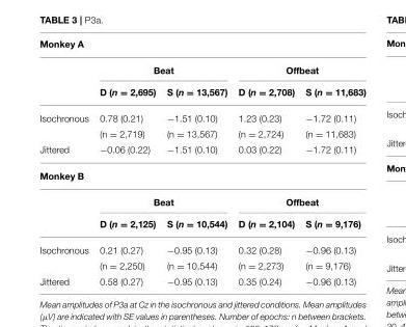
<table><thead><tr><td colspan="5">Monkey A</td></tr><tr><td rowspan="2"></td><td colspan="2">Beat</td><td colspan="2">Offbeat</td></tr><tr><td>D (n = 2,695)</td><td>S (n = 13,567)</td><td>D (n = 2,708)</td><td>S (n = 11,683)</td></tr></thead><tbody><tr><td rowspan="2">Isochronous</td><td>0.78 (0.21)</td><td>−1.51 (0.10)</td><td>1.23 (0.23)</td><td>−1.72 (0.11)</td></tr><tr><td>(n = 2,719)</td><td>(n = 13,567)</td><td>(n = 2,724)</td><td>(n = 11,683)</td></tr><tr><td>Jittered</td><td>−0.06 (0.22)</td><td>−1.51 (0.10)</td><td>0.03 (0.22)</td><td>−1.72 (0.11)</td></tr><tr><td colspan="5">Monkey B</td></tr><tr><td></td><td colspan="2">Beat</td><td colspan="2">Offbeat</td></tr><tr><td></td><td>D (n = 2,125)</td><td>S (n = 10,544)</td><td>D (n = 2,104)</td><td>S (n = 9,176)</td></tr><tr><td rowspan="2">Isochronous</td><td>0.21 (0.27)</td><td>−0.95 (0.13)</td><td>0.32 (0.28)</td><td>−0.96 (0.13)</td></tr><tr><td>(n = 2,250)</td><td>(n = 10,544)</td><td>(n = 2,273)</td><td>(n = 9,176)</td></tr><tr><td>Jittered</td><td>0.58 (0.27)</td><td>−0.95 (0.13)</td><td>0.35 (0.24)</td><td>−0.96 (0.13)</td></tr></tbody></table>